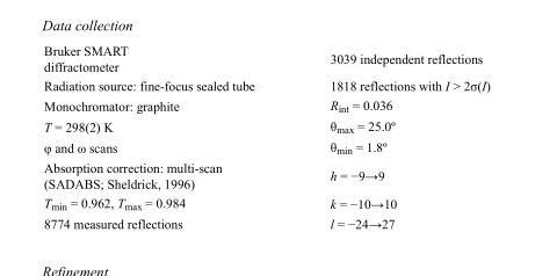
<table><tbody><tr><td>Bruker SMART diffractometer</td><td>3039 independent reflections</td></tr><tr><td>Radiation source: fine-focus sealed tube</td><td>1818 reflections with I &gt; 2σ(I)</td></tr><tr><td>Monochromator: graphite</td><td>R<sub>int</sub> = 0.036</td></tr><tr><td>T = 298(2) K</td><td>θ<sub>max</sub> = 25.0º</td></tr><tr><td>φ and ω scans</td><td>θ<sub>min</sub> = 1.8º</td></tr><tr><td>Absorption correction: multi-scan (SADABS; Sheldrick, 1996)</td><td>h = −9→9</td></tr><tr><td>T<sub>min</sub> = 0.962, T<sub>max</sub> = 0.984</td><td>k = −10→10</td></tr><tr><td>8774 measured reflections</td><td>l = −24→27</td></tr></tbody></table>